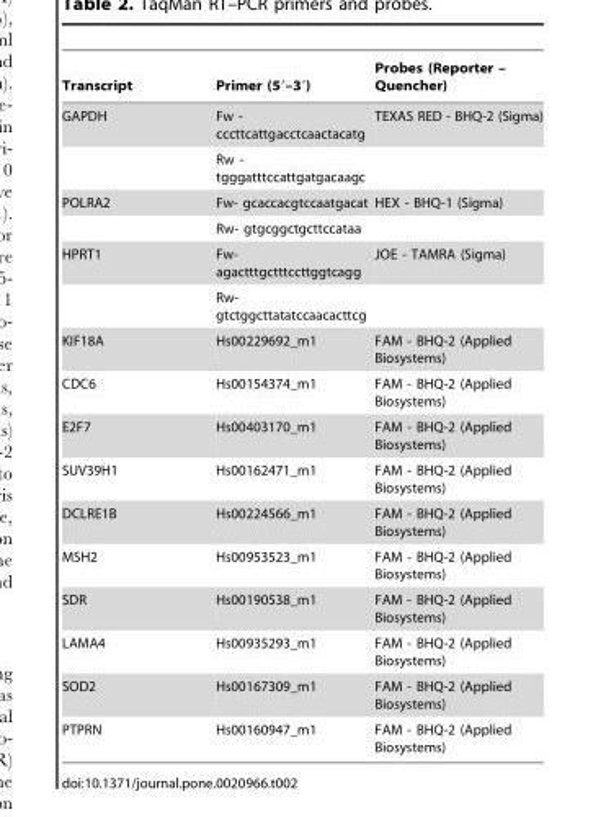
<table><thead><tr><td>Transcript</td><td>Primer (5′–3′)</td><td>Probes (Reporter – Quencher)</td></tr></thead><tbody><tr><td rowspan="2">GAPDH</td><td>Fw - cccttcattgacctcaactacatg</td><td>TEXAS RED - BHQ-2 (Sigma)</td></tr><tr><td>Rw - tgggatttccattgatgacaagc</td><td></td></tr><tr><td rowspan="2">POLRA2</td><td>Fw- gcaccacgtccaatgacat</td><td>HEX - BHQ-1 (Sigma)</td></tr><tr><td>Rw- gtgcggctgcttccataa</td><td></td></tr><tr><td rowspan="2">HPRT1</td><td>Fw- agactttgctttccttggtcagg</td><td>JOE - TAMRA (Sigma)</td></tr><tr><td>Rw- gtctggcttatatccaacacttcg</td><td></td></tr><tr><td>KIF18A</td><td>Hs00229692_m1</td><td>FAM - BHQ-2 (Applied Biosystems)</td></tr><tr><td>CDC6</td><td>Hs00154374_m1</td><td>FAM - BHQ-2 (Applied Biosystems)</td></tr><tr><td>E2F7</td><td>Hs00403170_m1</td><td>FAM - BHQ-2 (Applied Biosystems)</td></tr><tr><td>SUV39H1</td><td>Hs00162471_m1</td><td>FAM - BHQ-2 (Applied Biosystems)</td></tr><tr><td>DCLRE1B</td><td>Hs00224566_m1</td><td>FAM - BHQ-2 (Applied Biosystems)</td></tr><tr><td>MSH2</td><td>Hs00953523_m1</td><td>FAM - BHQ-2 (Applied Biosystems)</td></tr><tr><td>SDR</td><td>Hs00190538_m1</td><td>FAM - BHQ-2 (Applied Biosystems)</td></tr><tr><td>LAMA4</td><td>Hs00935293_m1</td><td>FAM - BHQ-2 (Applied Biosystems)</td></tr><tr><td>SOD2</td><td>Hs00167309_m1</td><td>FAM - BHQ-2 (Applied Biosystems)</td></tr><tr><td>PTPRN</td><td>Hs00160947_m1</td><td>FAM - BHQ-2 (Applied Biosystems)</td></tr></tbody></table>